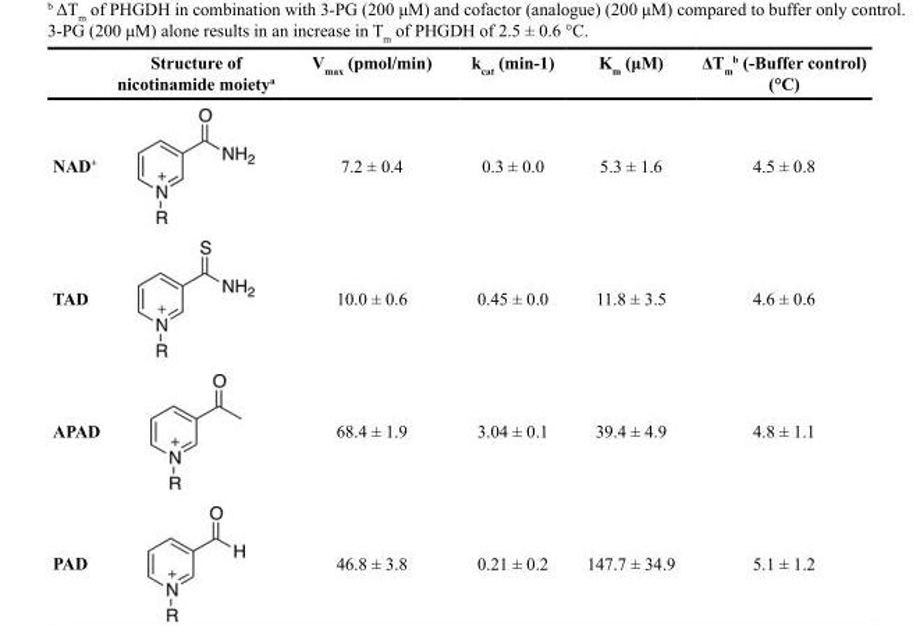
<table><thead><tr><td></td><td>Structure of nicotinamide moiety<sup>a</sup></td><td>V<sub>max</sub> (pmol/min)</td><td>k<sub>cat</sub> (min-1)</td><td>K<sub>m</sub> (μM)</td><td>ΔT<sub>m</sub> <sup>b</sup> (-Buffer control) (°C)</td></tr></thead><tbody><tr><td>NAD<sup>+</sup></td><td></td><td>7.2 ± 0.4</td><td>0.3 ± 0.0</td><td>5.3 ± 1.6</td><td>4.5 ± 0.8</td></tr><tr><td>TAD</td><td></td><td>10.0 ± 0.6</td><td>0.45 ± 0.0</td><td>11.8 ± 3.5</td><td>4.6 ± 0.6</td></tr><tr><td>APAD</td><td></td><td>68.4 ± 1.9</td><td>3.04 ± 0.1</td><td>39.4 ± 4.9</td><td>4.8 ± 1.1</td></tr><tr><td>PAD</td><td></td><td>46.8 ± 3.8</td><td>0.21 ± 0.2</td><td>147.7 ± 34.9</td><td>5.1 ± 1.2</td></tr></tbody></table>